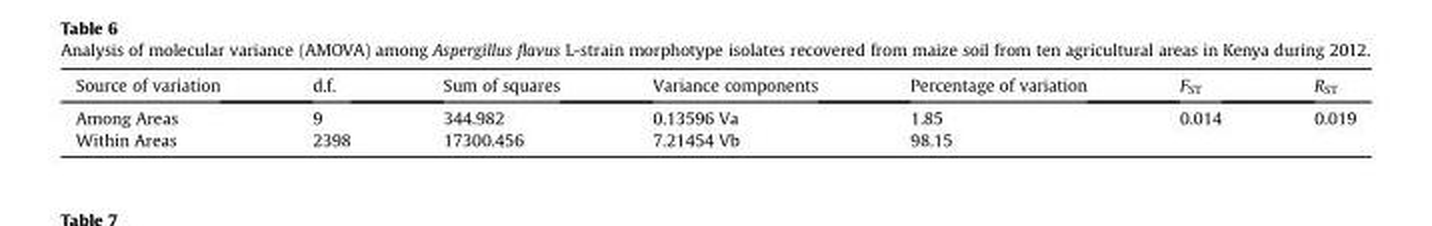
<table><thead><tr><td>Source of variation</td><td>d.f.</td><td>Sum of squares</td><td>Variance components</td><td>Percentage of variation</td><td>F<sub>ST</sub></td><td>R<sub>ST</sub></td></tr></thead><tbody><tr><td>Among Areas</td><td>9</td><td>344.982</td><td>0.13596 Va</td><td>1.85</td><td>0.014</td><td>0.019</td></tr><tr><td>Within Areas</td><td>2398</td><td>17300.456</td><td>7.21454 Vb</td><td>98.15</td><td></td><td></td></tr></tbody></table>